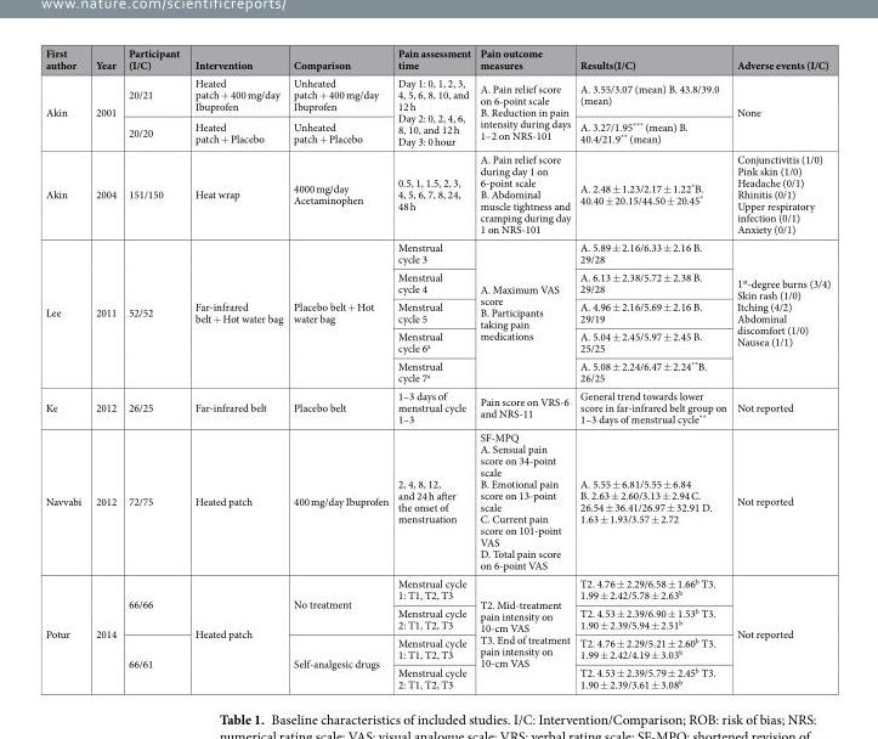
<table><thead><tr><td>First author</td><td>Year</td><td>Participant (I/C)</td><td>Intervention</td><td>Comparison</td><td>Pain assessment time</td><td>Pain outcome measures</td><td>Results(I/C)</td><td>Adverse events (I/C)</td></tr></thead><tbody><tr><td rowspan="2">Akin</td><td rowspan="2">2001</td><td>20/21</td><td>Heated patch + 400 mg/day Ibuprofen</td><td>Unheated patch + 400 mg/day Ibuprofen</td><td rowspan="2">Day 1: 0, 1, 2, 3, 4, 5, 6, 8, 10, and 12 h Day 2: 0, 2, 4, 6, 8, 10, and 12 h Day 3: 0 hour</td><td rowspan="2">A. Pain relief score on 6-point scale B. Reduction in pain intensity during days 1–2 on NRS-101</td><td>A. 3.55/3.07 (mean) B. 43.8/39.0 (mean)</td><td rowspan="2">None</td></tr><tr><td>20/20</td><td>Heated patch + Placebo</td><td>Unheated patch + Placebo</td><td>A. 3.27/1.95*** (mean) B. 40.4/21.9** (mean)</td></tr><tr><td>Akin</td><td>2004</td><td>151/150</td><td>Heat wrap</td><td>4000 mg/day Acetaminophen</td><td>0.5, 1, 1.5, 2, 3, 4, 5, 6, 7, 8, 24, 48 h</td><td>A. Pain relief score during day 1 on 6-point scale B. Abdominal muscle tightness and cramping during day 1 on NRS-101</td><td>A. 2.48 ± 1.23/2.17 ± 1.22*B. 40.40 ± 20.15/44.50 ± 20.45*</td><td>Conjunctivitis (1/0) Pink skin (1/0) Headache (0/1) Rhinitis (0/1) Upper respiratory infection (0/1) Anxiety (0/1)</td></tr><tr><td rowspan="5">Lee</td><td rowspan="5">2011</td><td rowspan="5">52/52</td><td rowspan="5">Far-infrared belt + Hot water bag</td><td rowspan="5">Placebo belt + Hot water bag</td><td>Menstrual cycle 3</td><td rowspan="5">A. Maximum VAS score B. Participants taking pain medications</td><td>A. 5.89 ± 2.16/6.33 ± 2.16 B. 29/28</td><td rowspan="5">1<sup>st</sup>-degree burns (3/4) Skin rash (1/0) Itching (4/2) Abdominal discomfort (1/0) Nausea (1/1)</td></tr><tr><td>Menstrual cycle 4</td><td>A. 6.13 ± 2.38/5.72 ± 2.38 B. 29/28</td></tr><tr><td>Menstrual cycle 5</td><td>A. 4.96 ± 2.16/5.69 ± 2.16 B. 29/19</td></tr><tr><td>Menstrual cycle 6<sup>a</sup></td><td>A. 5.04 ± 2.45/5.97 ± 2.45 B. 25/25</td></tr><tr><td>Menstrual cycle 7<sup>a</sup></td><td>A. 5.08 ± 2.24/6.47 ± 2.24**B. 26/25</td></tr><tr><td>Ke</td><td>2012</td><td>26/25</td><td>Far-infrared belt</td><td>Placebo belt</td><td>1–3 days of menstrual cycle 1–3</td><td>Pain score on VRS-6 and NRS-11</td><td>General trend towards lower score in far-infrared belt group on 1–3 days of menstrual cycle**</td><td>Not reported</td></tr><tr><td>Navvabi</td><td>2012</td><td>72/75</td><td>Heated patch</td><td>400 mg/day Ibuprofen</td><td>2, 4, 8, 12, and 24 h after the onset of menstruation</td><td>SF-MPQ A. Sensual pain score on 34-point scale B. Emotional pain score on 13-point scale C. Current pain score on 101-point VAS D. Total pain score on 6-point VAS</td><td>A. 5.55 ± 6.81/5.55 ± 6.84 B. 2.63 ± 2.60/3.13 ± 2.94 C. 26.54 ± 36.41/26.97 ± 32.91 D. 1.63 ± 1.93/3.57 ± 2.72</td><td>Not reported</td></tr><tr><td rowspan="4">Potur</td><td rowspan="4">2014</td><td rowspan="2">66/66</td><td rowspan="4">Heated patch</td><td rowspan="2">No treatment</td><td>Menstrual cycle 1: T1, T2, T3</td><td rowspan="4">T2. Mid-treatment pain intensity on 10-cm VAS T3. End of treatment pain intensity on 10-cm VAS</td><td>T2. 4.76 ± 2.29/6.58 ± 1.66<sup>b</sup> T3. 1.99 ± 2.42/5.78 ± 2.63<sup>b</sup></td><td rowspan="4">Not reported</td></tr><tr><td>Menstrual cycle 2: T1, T2, T3</td><td>T2. 4.53 ± 2.39/6.90 ± 1.53<sup>b</sup> T3. 1.90 ± 2.39/5.94 ± 2.51<sup>b</sup></td></tr><tr><td rowspan="2">66/61</td><td rowspan="2">Self-analgesic drugs</td><td>Menstrual cycle 1: T1, T2, T3</td><td>T2. 4.76 ± 2.29/5.21 ± 2.60<sup>b</sup> T3. 1.99 ± 2.42/4.19 ± 3.03<sup>b</sup></td></tr><tr><td>Menstrual cycle 2: T1, T2, T3</td><td>T2. 4.53 ± 2.39/5.79 ± 2.45<sup>b</sup> T3. 1.90 ± 2.39/3.61 ± 3.08<sup>b</sup></td></tr></tbody></table>